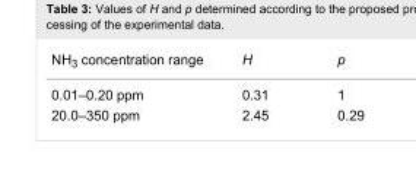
<table><tbody><tr><td>NH<sub>3</sub> concentration range</td><td>H</td><td>p</td></tr><tr><td>0.01–0.20 ppm</td><td>0.31</td><td>1</td></tr><tr><td>20.0–350 ppm</td><td>2.45</td><td>0.29</td></tr></tbody></table>